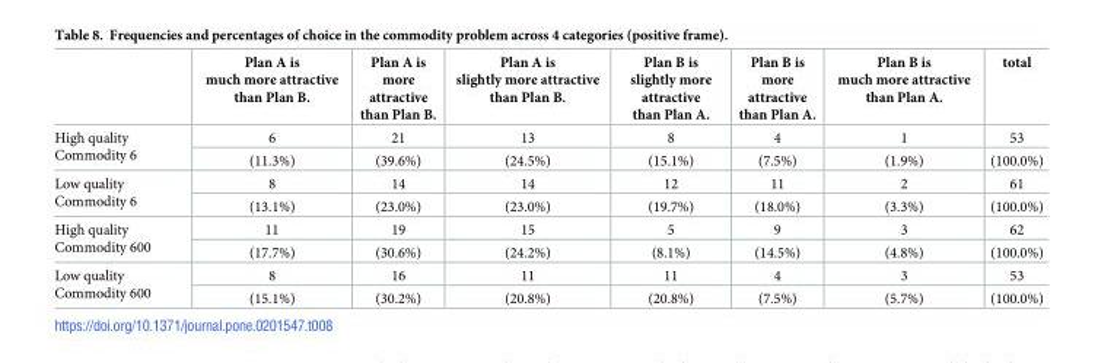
<table><thead><tr><td></td><td>Plan A is much more attractive than Plan B.</td><td>Plan A is more attractive than Plan B.</td><td>Plan A is slightly more attractive than Plan B.</td><td>Plan B is slightly more attractive than Plan A.</td><td>Plan B is more attractive than Plan A.</td><td>Plan B is much more attractive than Plan A.</td><td>total</td></tr></thead><tbody><tr><td rowspan="2">High quality Commodity 6</td><td>6</td><td>21</td><td>13</td><td>8</td><td>4</td><td>1</td><td>53</td></tr><tr><td>(11.3%)</td><td>(39.6%)</td><td>(24.5%)</td><td>(15.1%)</td><td>(7.5%)</td><td>(1.9%)</td><td>(100.0%)</td></tr><tr><td rowspan="2">Low quality Commodity 6</td><td>8</td><td>14</td><td>14</td><td>12</td><td>11</td><td>2</td><td>61</td></tr><tr><td>(13.1%)</td><td>(23.0%)</td><td>(23.0%)</td><td>(19.7%)</td><td>(18.0%)</td><td>(3.3%)</td><td>(100.0%)</td></tr><tr><td rowspan="2">High quality Commodity 600</td><td>11</td><td>19</td><td>15</td><td>5</td><td>9</td><td>3</td><td>62</td></tr><tr><td>(17.7%)</td><td>(30.6%)</td><td>(24.2%)</td><td>(8.1%)</td><td>(14.5%)</td><td>(4.8%)</td><td>(100.0%)</td></tr><tr><td rowspan="2">Low quality Commodity 600</td><td>8</td><td>16</td><td>11</td><td>11</td><td>4</td><td>3</td><td>53</td></tr><tr><td>(15.1%)</td><td>(30.2%)</td><td>(20.8%)</td><td>(20.8%)</td><td>(7.5%)</td><td>(5.7%)</td><td>(100.0%)</td></tr></tbody></table>